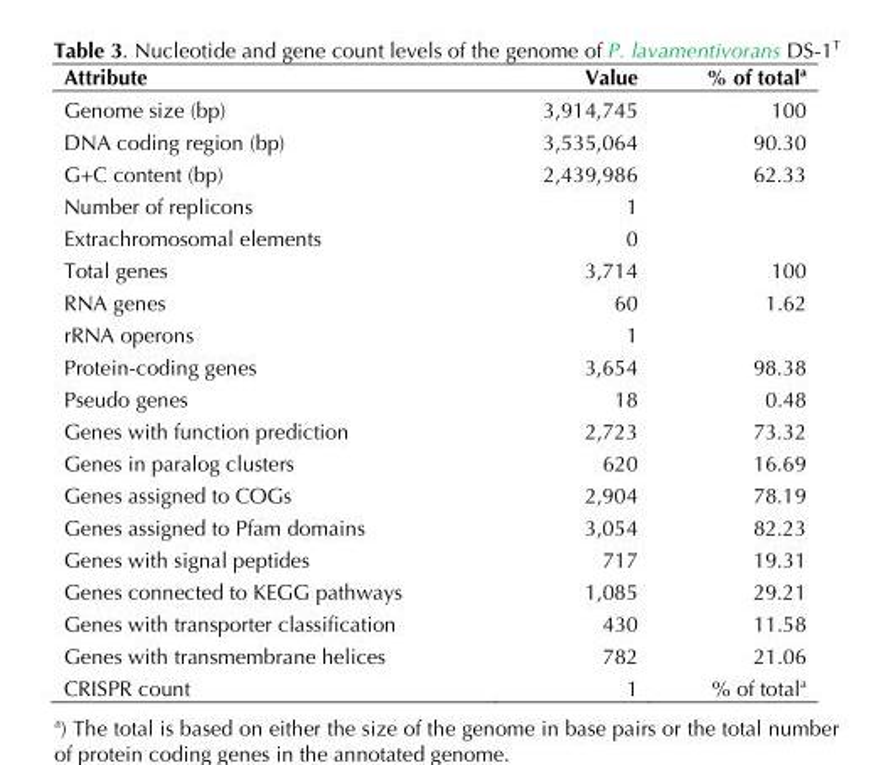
<table><thead><tr><td>Attribute</td><td>Value</td><td>% of total<sup>a</sup></td></tr></thead><tbody><tr><td>Genome size (bp)</td><td>3,914,745</td><td>100</td></tr><tr><td>DNA coding region (bp)</td><td>3,535,064</td><td>90.30</td></tr><tr><td>G+C content (bp)</td><td>2,439,986</td><td>62.33</td></tr><tr><td>Number of replicons</td><td>1</td><td></td></tr><tr><td>Extrachromosomal elements</td><td>0</td><td></td></tr><tr><td>Total genes</td><td>3,714</td><td>100</td></tr><tr><td>RNA genes</td><td>60</td><td>1.62</td></tr><tr><td>rRNA operons</td><td>1</td><td></td></tr><tr><td>Protein-coding genes</td><td>3,654</td><td>98.38</td></tr><tr><td>Pseudo genes</td><td>18</td><td>0.48</td></tr><tr><td>Genes with function prediction</td><td>2,723</td><td>73.32</td></tr><tr><td>Genes in paralog clusters</td><td>620</td><td>16.69</td></tr><tr><td>Genes assigned to COGs</td><td>2,904</td><td>78.19</td></tr><tr><td>Genes assigned to Pfam domains</td><td>3,054</td><td>82.23</td></tr><tr><td>Genes with signal peptides</td><td>717</td><td>19.31</td></tr><tr><td>Genes connected to KEGG pathways</td><td>1,085</td><td>29.21</td></tr><tr><td>Genes with transporter classification</td><td>430</td><td>11.58</td></tr><tr><td>Genes with transmembrane helices</td><td>782</td><td>21.06</td></tr><tr><td>CRISPR count</td><td>1</td><td>% of total<sup>a</sup></td></tr></tbody></table>